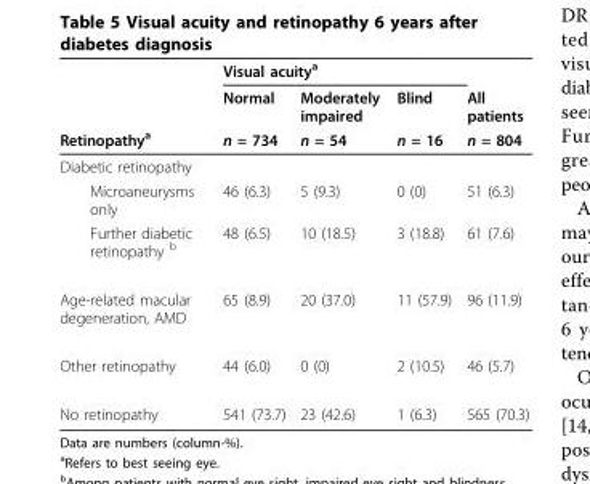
<table><thead><tr><td rowspan="3">Retinopathy<sup>a</sup></td><td colspan="3">Visual acuity<sup>a</sup></td><td rowspan="3">All patients n = 804</td></tr><tr><td rowspan="2">Normal n = 734</td><td rowspan="2">Moderately impaired n = 54</td><td rowspan="2">Blind n = 16</td></tr><tr></tr></thead><tbody><tr><td colspan="5">Diabetic retinopathy</td></tr><tr><td>Microaneurysms only</td><td>46 (6.3)</td><td>5 (9.3)</td><td>0 (0)</td><td>51 (6.3)</td></tr><tr><td>Further diabetic retinopathy <sup>b</sup></td><td>48 (6.5)</td><td>10 (18.5)</td><td>3 (18.8)</td><td>61 (7.6)</td></tr><tr><td>Age-related macular degeneration, AMD</td><td>65 (8.9)</td><td>20 (37.0)</td><td>11 (57.9)</td><td>96 (11.9)</td></tr><tr><td>Other retinopathy</td><td>44 (6.0)</td><td>0 (0)</td><td>2 (10.5)</td><td>46 (5.7)</td></tr><tr><td>No retinopathy</td><td>541 (73.7)</td><td>23 (42.6)</td><td>1 (6.3)</td><td>565 (70.3)</td></tr></tbody></table>